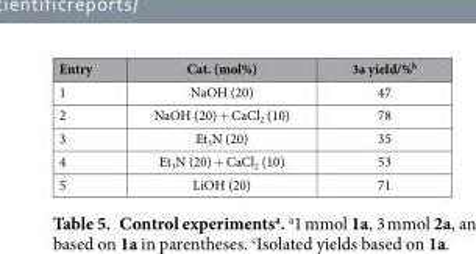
<table><thead><tr><td>Entry</td><td>Cat. (mol%)</td><td>3a yield/%<sup>b</sup></td></tr></thead><tbody><tr><td>1</td><td>NaOH (20)</td><td>47</td></tr><tr><td>2</td><td>NaOH (20) + CaCl<sub>2</sub> (10)</td><td>78</td></tr><tr><td>3</td><td>Et<sub>3</sub>N (20)</td><td>35</td></tr><tr><td>4</td><td>Et<sub>3</sub>N (20) + CaCl<sub>2</sub> (10)</td><td>53</td></tr><tr><td>5</td><td>LiOH (20)</td><td>71</td></tr></tbody></table>